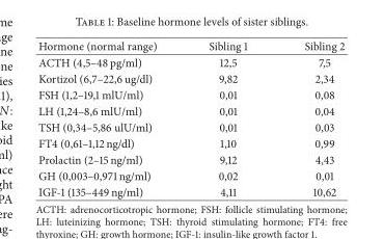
<table><thead><tr><td>Hormone (normal range)</td><td>Sibling 1</td><td>Sibling 2</td></tr></thead><tbody><tr><td>ACTH (4,5–48 pg/ml)</td><td>12,5</td><td>7,5</td></tr><tr><td>Kortizol (6,7–22,6 ug/dl)</td><td>9,82</td><td>2,34</td></tr><tr><td>FSH (1,2–19,1 mlU/ml)</td><td>0,01</td><td>0,08</td></tr><tr><td>LH (1,24–8,6 mlU/ml)</td><td>0,01</td><td>0,04</td></tr><tr><td>TSH (0,34–5,86 ulU/ml)</td><td>0,01</td><td>0,03</td></tr><tr><td>FT4 (0,61–1,12 ng/dl)</td><td>1,10</td><td>0,99</td></tr><tr><td>Prolactin (2–15 ng/ml)</td><td>9,12</td><td>4,43</td></tr><tr><td>GH (0,003–0,971 ng/ml)</td><td>0,02</td><td>0,01</td></tr><tr><td>IGF-1 (135–449 ng/ml)</td><td>4,11</td><td>10,62</td></tr></tbody></table>